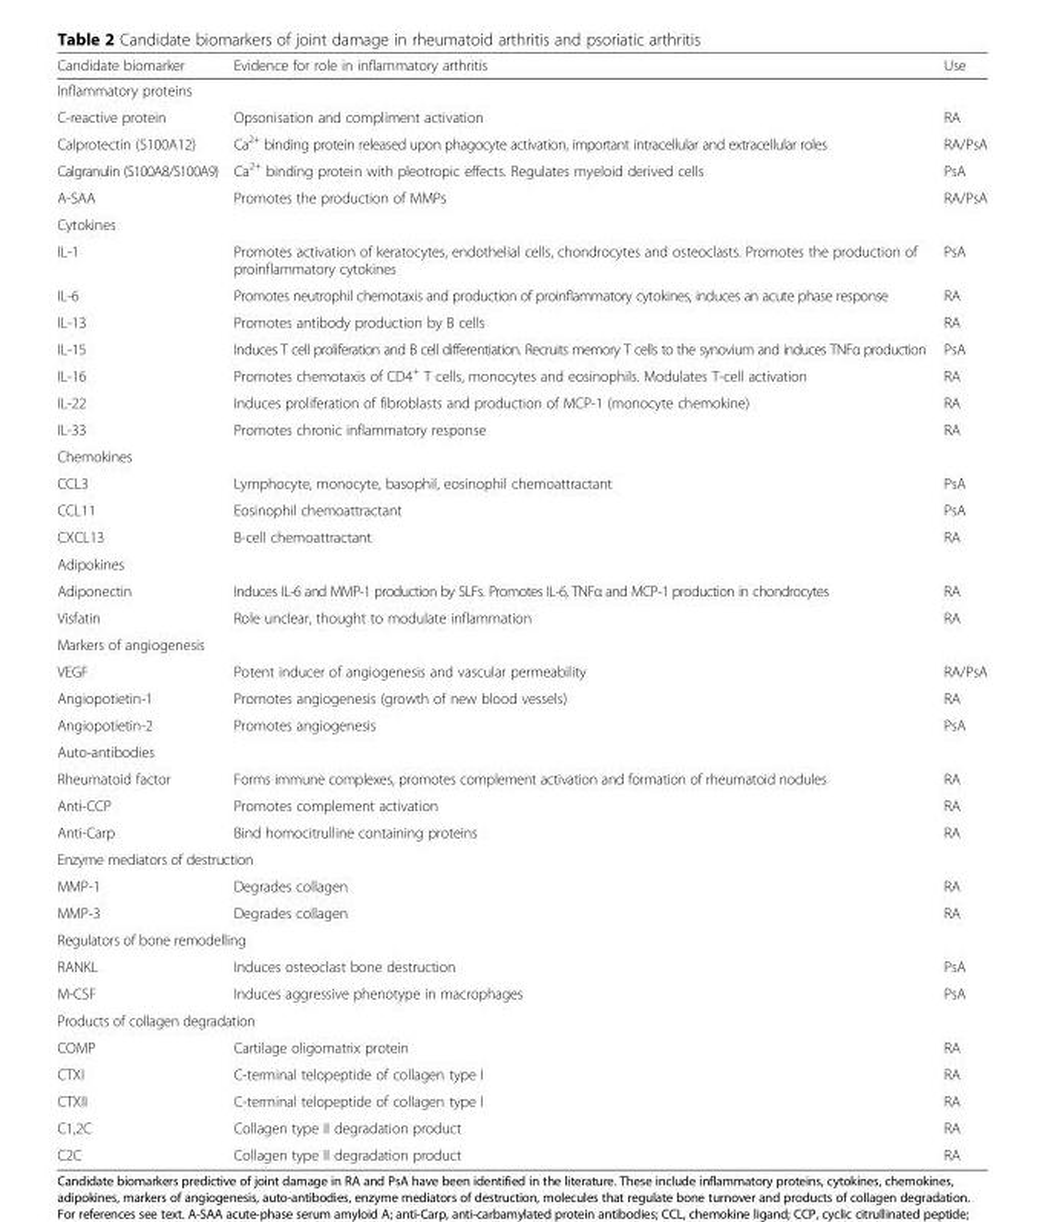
<table><thead><tr><td>Candidate biomarker</td><td>Evidence for role in inflammatory arthritis</td><td>Use</td></tr></thead><tbody><tr><td colspan="3">Inflammatory proteins</td></tr><tr><td>C-reactive protein</td><td>Opsonisation and compliment activation</td><td>RA</td></tr><tr><td>Calprotectin (S100A12)</td><td>Ca<sup>2+</sup> binding protein released upon phagocyte activation, important intracellular and extracellular roles</td><td>RA/PsA</td></tr><tr><td>Calgranulin (S100A8/S100A9)</td><td>Ca<sup>2+</sup> binding protein with pleotropic effects. Regulates myeloid derived cells</td><td>PsA</td></tr><tr><td>A-SAA</td><td>Promotes the production of MMPs</td><td>RA/PsA</td></tr><tr><td colspan="3">Cytokines</td></tr><tr><td>IL-1</td><td>Promotes activation of keratocytes, endothelial cells, chondrocytes and osteoclasts. Promotes the production of proinflammatory cytokines</td><td>PsA</td></tr><tr><td>IL-6</td><td>Promotes neutrophil chemotaxis and production of proinflammatory cytokines, induces an acute phase response</td><td>RA</td></tr><tr><td>IL-13</td><td>Promotes antibody production by B cells</td><td>RA</td></tr><tr><td>IL-15</td><td>Induces T cell proliferation and B cell differentiation. Recruits memory T cells to the synovium and induces TNFα production</td><td>PsA</td></tr><tr><td>IL-16</td><td>Promotes chemotaxis of CD4<sup>+</sup> T cells, monocytes and eosinophils. Modulates T-cell activation</td><td>RA</td></tr><tr><td>IL-22</td><td>Induces proliferation of fibroblasts and production of MCP-1 (monocyte chemokine)</td><td>RA</td></tr><tr><td>IL-33</td><td>Promotes chronic inflammatory response</td><td>RA</td></tr><tr><td colspan="3">Chemokines</td></tr><tr><td>CCL3</td><td>Lymphocyte, monocyte, basophil, eosinophil chemoattractant</td><td>PsA</td></tr><tr><td>CCL11</td><td>Eosinophil chemoattractant</td><td>PsA</td></tr><tr><td>CXCL13</td><td>B-cell chemoattractant</td><td>RA</td></tr><tr><td colspan="3">Adipokines</td></tr><tr><td>Adiponectin</td><td>Induces IL-6 and MMP-1 production by SLFs. Promotes IL-6, TNFα and MCP-1 production in chondrocytes</td><td>RA</td></tr><tr><td>Visfatin</td><td>Role unclear, thought to modulate inflammation</td><td>RA</td></tr><tr><td colspan="3">Markers of angiogenesis</td></tr><tr><td>VEGF</td><td>Potent inducer of angiogenesis and vascular permeability</td><td>RA/PsA</td></tr><tr><td>Angiopotietin-1</td><td>Promotes angiogenesis (growth of new blood vessels)</td><td>RA</td></tr><tr><td>Angiopotietin-2</td><td>Promotes angiogenesis</td><td>PsA</td></tr><tr><td colspan="3">Auto-antibodies</td></tr><tr><td>Rheumatoid factor</td><td>Forms immune complexes, promotes complement activation and formation of rheumatoid nodules</td><td>RA</td></tr><tr><td>Anti-CCP</td><td>Promotes complement activation</td><td>RA</td></tr><tr><td>Anti-Carp</td><td>Bind homocitrulline containing proteins</td><td>RA</td></tr><tr><td colspan="3">Enzyme mediators of destruction</td></tr><tr><td>MMP-1</td><td>Degrades collagen</td><td>RA</td></tr><tr><td>MMP-3</td><td>Degrades collagen</td><td>RA</td></tr><tr><td colspan="3">Regulators of bone remodelling</td></tr><tr><td>RANKL</td><td>Induces osteoclast bone destruction</td><td>PsA</td></tr><tr><td>M-CSF</td><td>Induces aggressive phenotype in macrophages</td><td>PsA</td></tr><tr><td colspan="3">Products of collagen degradation</td></tr><tr><td>COMP</td><td>Cartilage oligomatrix protein</td><td>RA</td></tr><tr><td>CTXI</td><td>C-terminal telopeptide of collagen type I</td><td>RA</td></tr><tr><td>CTXII</td><td>C-terminal telopeptide of collagen type I</td><td>RA</td></tr><tr><td>C1,2C</td><td>Collagen type II degradation product</td><td>RA</td></tr><tr><td>C2C</td><td>Collagen type II degradation product</td><td>RA</td></tr></tbody></table>